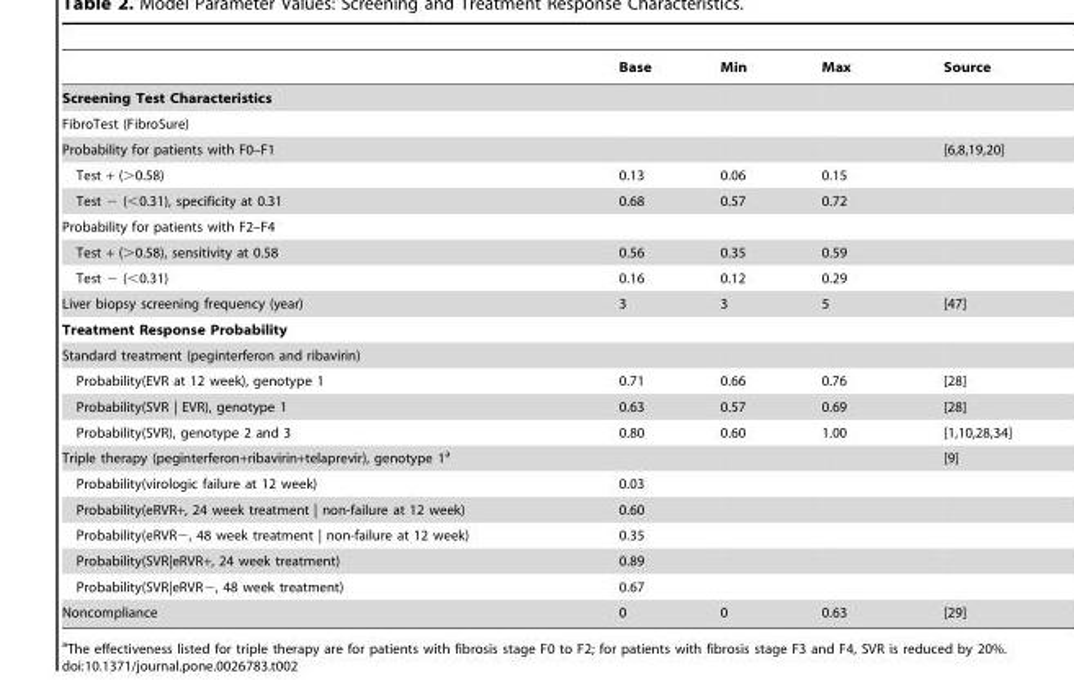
<table><thead><tr><td></td><td>Base</td><td>Min</td><td>Max</td><td>Source</td></tr></thead><tbody><tr><td colspan="5">Screening Test Characteristics</td></tr><tr><td colspan="5">FibroTest (FibroSure)</td></tr><tr><td>Probability for patients with F0–F1</td><td></td><td></td><td></td><td>[6,8,19,20]</td></tr><tr><td>Test + (&gt;0.58)</td><td>0.13</td><td>0.06</td><td>0.15</td><td></td></tr><tr><td>Test − (&lt;0.31), specificity at 0.31</td><td>0.68</td><td>0.57</td><td>0.72</td><td></td></tr><tr><td colspan="5">Probability for patients with F2–F4</td></tr><tr><td>Test + (&gt;0.58), sensitivity at 0.58</td><td>0.56</td><td>0.35</td><td>0.59</td><td></td></tr><tr><td>Test − (&lt;0.31)</td><td>0.16</td><td>0.12</td><td>0.29</td><td></td></tr><tr><td>Liver biopsy screening frequency (year)</td><td>3</td><td>3</td><td>5</td><td>[47]</td></tr><tr><td colspan="5">Treatment Response Probability</td></tr><tr><td colspan="5">Standard treatment (peginterferon and ribavirin)</td></tr><tr><td>Probability(EVR at 12 week), genotype 1</td><td>0.71</td><td>0.66</td><td>0.76</td><td>[28]</td></tr><tr><td>Probability(SVR | EVR), genotype 1</td><td>0.63</td><td>0.57</td><td>0.69</td><td>[28]</td></tr><tr><td>Probability(SVR), genotype 2 and 3</td><td>0.80</td><td>0.60</td><td>1.00</td><td>[1,10,28,34]</td></tr><tr><td>Triple therapy (peginterferon+ribavirin+telaprevir), genotype 1<sup>a</sup></td><td></td><td></td><td></td><td>[9]</td></tr><tr><td>Probability(virologic failure at 12 week)</td><td>0.03</td><td></td><td></td><td></td></tr><tr><td>Probability(eRVR+, 24 week treatment | non-failure at 12 week)</td><td>0.60</td><td></td><td></td><td></td></tr><tr><td>Probability(eRVR−, 48 week treatment | non-failure at 12 week)</td><td>0.35</td><td></td><td></td><td></td></tr><tr><td>Probability(SVR|eRVR+, 24 week treatment)</td><td>0.89</td><td></td><td></td><td></td></tr><tr><td>Probability(SVR|eRVR−, 48 week treatment)</td><td>0.67</td><td></td><td></td><td></td></tr><tr><td>Noncompliance</td><td>0</td><td>0</td><td>0.63</td><td>[29]</td></tr></tbody></table>